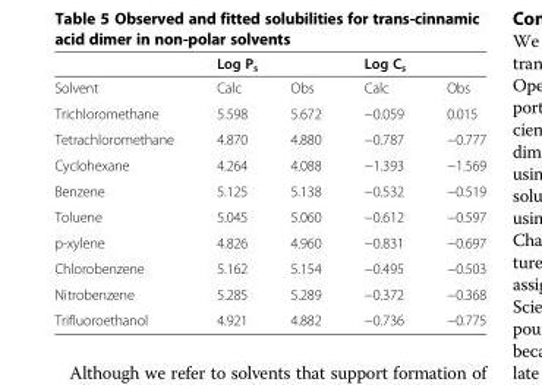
<table><thead><tr><td rowspan="2">Solvent</td><td colspan="2">Log P<sub>s</sub></td><td colspan="2">Log C<sub>s</sub></td></tr><tr><td>Calc</td><td>Obs</td><td>Calc</td><td>Obs</td></tr></thead><tbody><tr><td>Trichloromethane</td><td>5.598</td><td>5.672</td><td>−0.059</td><td>0.015</td></tr><tr><td>Tetrachloromethane</td><td>4.870</td><td>4.880</td><td>−0.787</td><td>−0.777</td></tr><tr><td>Cyclohexane</td><td>4.264</td><td>4.088</td><td>−1.393</td><td>−1.569</td></tr><tr><td>Benzene</td><td>5.125</td><td>5.138</td><td>−0.532</td><td>−0.519</td></tr><tr><td>Toluene</td><td>5.045</td><td>5.060</td><td>−0.612</td><td>−0.597</td></tr><tr><td>p-xylene</td><td>4.826</td><td>4.960</td><td>−0.831</td><td>−0.697</td></tr><tr><td>Chlorobenzene</td><td>5.162</td><td>5.154</td><td>−0.495</td><td>−0.503</td></tr><tr><td>Nitrobenzene</td><td>5.285</td><td>5.289</td><td>−0.372</td><td>−0.368</td></tr><tr><td>Trifluoroethanol</td><td>4.921</td><td>4.882</td><td>−0.736</td><td>−0.775</td></tr></tbody></table>